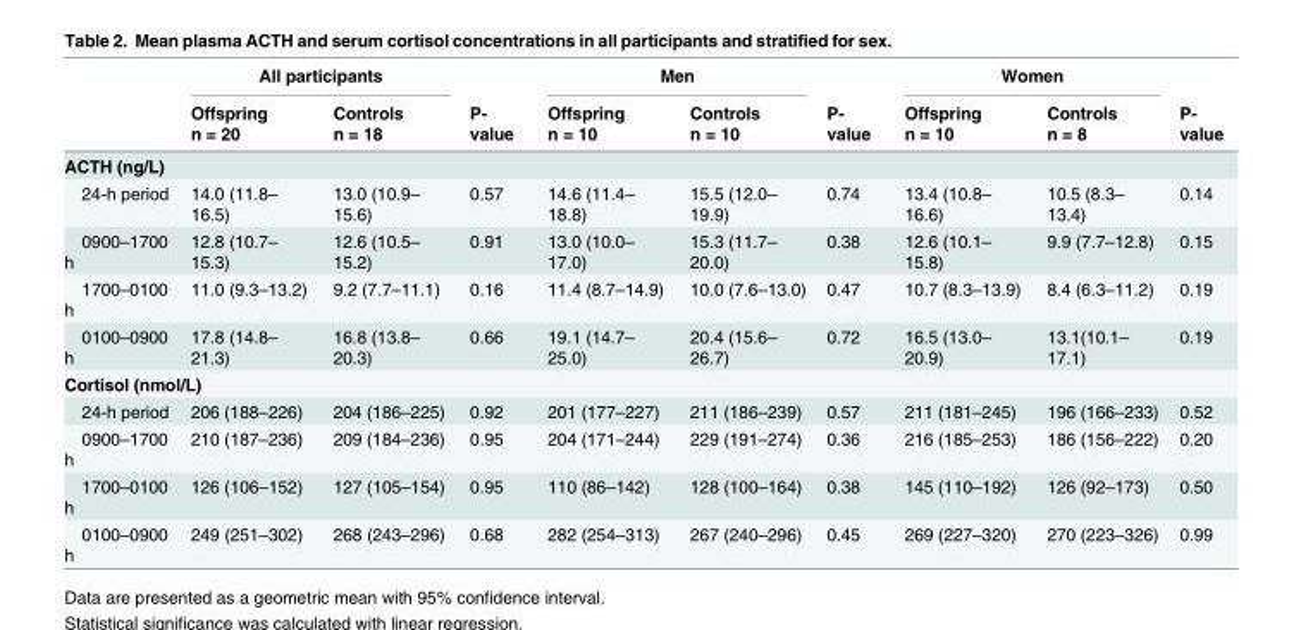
<table><thead><tr><td rowspan="2"></td><td colspan="2">All participants</td><td rowspan="2">P- value</td><td colspan="2">Men</td><td rowspan="2">P- value</td><td colspan="2">Women</td><td rowspan="2">P- value</td></tr><tr><td>Offspring n = 20</td><td>Controls n = 18</td><td>Offspring n = 10</td><td>Controls n = 10</td><td>Offspring n = 10</td><td>Controls n = 8</td></tr></thead><tbody><tr><td colspan="10">ACTH (ng/L)</td></tr><tr><td>24-h period</td><td>14.0 (11.8– 16.5)</td><td>13.0 (10.9– 15.6)</td><td>0.57</td><td>14.6 (11.4– 18.8)</td><td>15.5 (12.0– 19.9)</td><td>0.74</td><td>13.4 (10.8– 16.6)</td><td>10.5 (8.3– 13.4)</td><td>0.14</td></tr><tr><td>0900–1700 h</td><td>12.8 (10.7– 15.3)</td><td>12.6 (10.5– 15.2)</td><td>0.91</td><td>13.0 (10.0– 17.0)</td><td>15.3 (11.7– 20.0)</td><td>0.38</td><td>12.6 (10.1– 15.8)</td><td>9.9 (7.7–12.8)</td><td>0.15</td></tr><tr><td>1700–0100 h</td><td>11.0 (9.3–13.2)</td><td>9.2 (7.7–11.1)</td><td>0.16</td><td>11.4 (8.7–14.9)</td><td>10.0 (7.6–13.0)</td><td>0.47</td><td>10.7 (8.3–13.9)</td><td>8.4 (6.3–11.2)</td><td>0.19</td></tr><tr><td>0100–0900 h</td><td>17.8 (14.8– 21.3)</td><td>16.8 (13.8– 20.3)</td><td>0.66</td><td>19.1 (14.7– 25.0)</td><td>20.4 (15.6– 26.7)</td><td>0.72</td><td>16.5 (13.0– 20.9)</td><td>13.1(10.1– 17.1)</td><td>0.19</td></tr><tr><td colspan="10">Cortisol (nmol/L)</td></tr><tr><td>24-h period</td><td>206 (188–226)</td><td>204 (186–225)</td><td>0.92</td><td>201 (177–227)</td><td>211 (186–239)</td><td>0.57</td><td>211 (181–245)</td><td>196 (166–233)</td><td>0.52</td></tr><tr><td>0900–1700 h</td><td>210 (187–236)</td><td>209 (184–236)</td><td>0.95</td><td>204 (171–244)</td><td>229 (191–274)</td><td>0.36</td><td>216 (185–253)</td><td>186 (156–222)</td><td>0.20</td></tr><tr><td>1700–0100 h</td><td>126 (106–152)</td><td>127 (105–154)</td><td>0.95</td><td>110 (86–142)</td><td>128 (100–164)</td><td>0.38</td><td>145 (110–192)</td><td>126 (92–173)</td><td>0.50</td></tr><tr><td>0100–0900 h</td><td>249 (251–302)</td><td>268 (243–296)</td><td>0.68</td><td>282 (254–313)</td><td>267 (240–296)</td><td>0.45</td><td>269 (227–320)</td><td>270 (223–326)</td><td>0.99</td></tr></tbody></table>